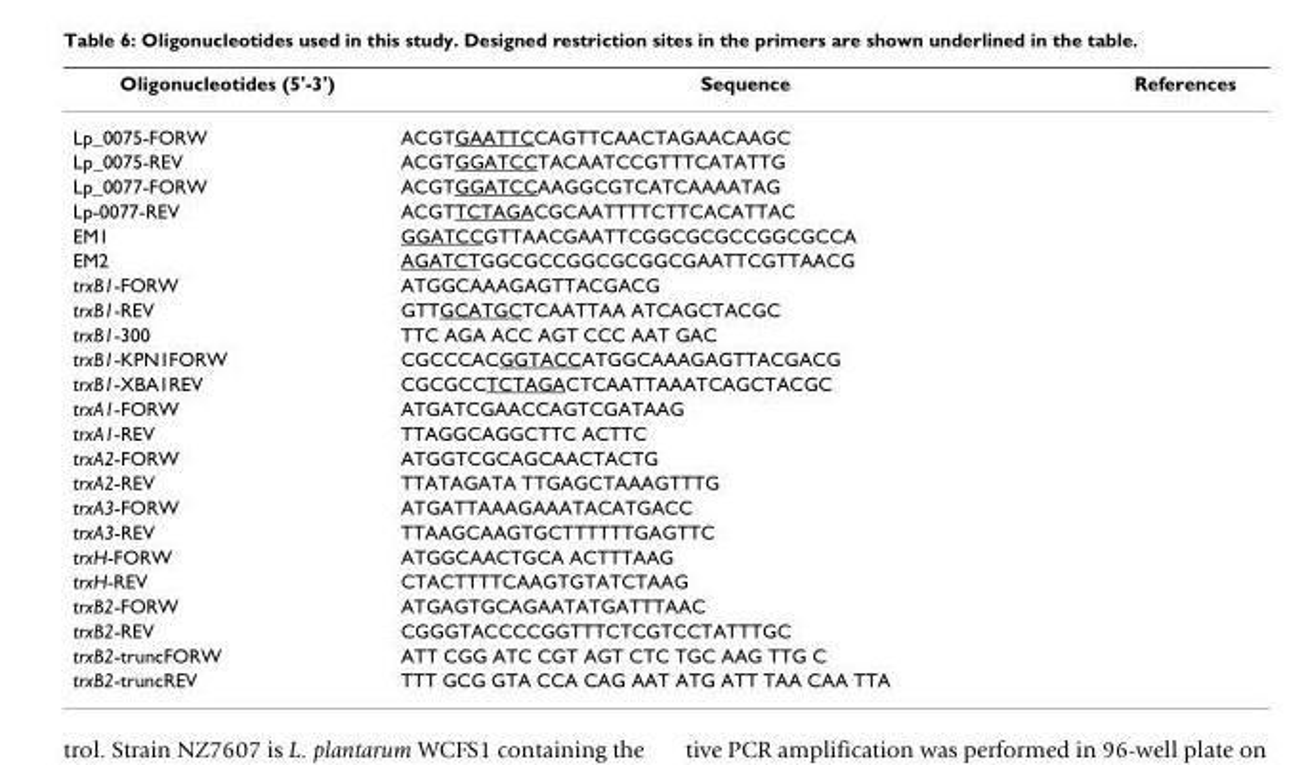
<table><thead><tr><td>Oligonucleotides (5&#x27;-3&#x27;)</td><td>Sequence</td><td>References</td></tr></thead><tbody><tr><td>Lp_0075-FORW</td><td>ACGTGAATTCCAGTTCAACTAGAACAAGC</td><td></td></tr><tr><td>Lp_0075-REV</td><td>ACGTGGATCCTACAATCCGTTTCATATTG</td><td></td></tr><tr><td>Lp_0077-FORW</td><td>ACGTGGATCCAAGGCGTCATCAAAATAG</td><td></td></tr><tr><td>Lp-0077-REV</td><td>ACGTTCTAGACGCAATTTTCTTCACATTAC</td><td></td></tr><tr><td>EM1</td><td>GGATCCGTTAACGAATTCGGCGCGCCGGCGCCA</td><td></td></tr><tr><td>EM2</td><td>AGATCTGGCGCCGGCGCGGCGAATTCGTTAACG</td><td></td></tr><tr><td>trxB1-FORW</td><td>ATGGCAAAGAGTTACGACG</td><td></td></tr><tr><td>trxB1-REV</td><td>GTTGCATGCTCAATTAA ATCAGCTACGC</td><td></td></tr><tr><td>trxB1-300</td><td>TTC AGA ACC AGT CCC AAT GAC</td><td></td></tr><tr><td>trxB1-KPN1FORW</td><td>CGCCCACGGTACCATGGCAAAGAGTTACGACG</td><td></td></tr><tr><td>trxB1-XBA1REV</td><td>CGCGCCTCTAGACTCAATTAAATCAGCTACGC</td><td></td></tr><tr><td>trxA1-FORW</td><td>ATGATCGAACCAGTCGATAAG</td><td></td></tr><tr><td>trxA1-REV</td><td>TTAGGCAGGCTTC ACTTC</td><td></td></tr><tr><td>trxA2-FORW</td><td>ATGGTCGCAGCAACTACTG</td><td></td></tr><tr><td>trxA2-REV</td><td>TTATAGATA TTGAGCTAAAGTTTG</td><td></td></tr><tr><td>trxA3-FORW</td><td>ATGATTAAAGAAATACATGACC</td><td></td></tr><tr><td>trxA3-REV</td><td>TTAAGCAAGTGCTTTTTTGAGTTC</td><td></td></tr><tr><td>trxH-FORW</td><td>ATGGCAACTGCA ACTTTAAG</td><td></td></tr><tr><td>trxH-REV</td><td>CTACTTTTCAAGTGTATCTAAG</td><td></td></tr><tr><td>trxB2-FORW</td><td>ATGAGTGCAGAATATGATTTAAC</td><td></td></tr><tr><td>trxB2-REV</td><td>CGGGTACCCCGGTTTCTCGTCCTATTTGC</td><td></td></tr><tr><td>trxB2-truncFORW</td><td>ATT CGG ATC CGT AGT CTC TGC AAG TTG C</td><td></td></tr><tr><td>trxB2-truncREV</td><td>TTT GCG GTA CCA CAG AAT ATG ATT TAA CAA TTA</td><td></td></tr></tbody></table>